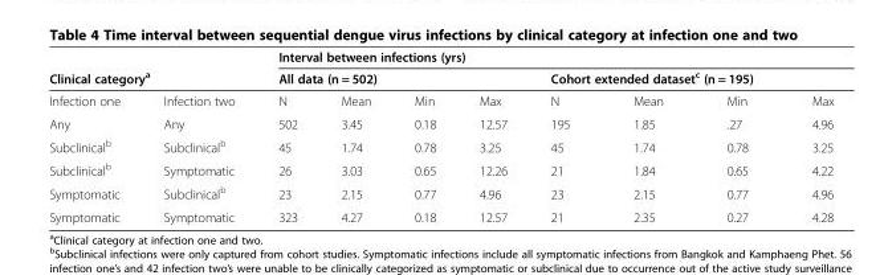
<table><thead><tr><td></td><td></td><td colspan="8">Interval between infections (yrs)</td></tr><tr><td colspan="2">Clinical category<sup>a</sup></td><td colspan="4">All data (n = 502)</td><td colspan="4">Cohort extended dataset<sup>c</sup> (n = 195)</td></tr><tr><td>Infection one</td><td>Infection two</td><td>N</td><td>Mean</td><td>Min</td><td>Max</td><td>N</td><td>Mean</td><td>Min</td><td>Max</td></tr></thead><tbody><tr><td>Any</td><td>Any</td><td>502</td><td>3.45</td><td>0.18</td><td>12.57</td><td>195</td><td>1.85</td><td>.27</td><td>4.96</td></tr><tr><td>Subclinical<sup>b</sup></td><td>Subclinical<sup>b</sup></td><td>45</td><td>1.74</td><td>0.78</td><td>3.25</td><td>45</td><td>1.74</td><td>0.78</td><td>3.25</td></tr><tr><td>Subclinical<sup>b</sup></td><td>Symptomatic</td><td>26</td><td>3.03</td><td>0.65</td><td>12.26</td><td>21</td><td>1.84</td><td>0.65</td><td>4.22</td></tr><tr><td>Symptomatic</td><td>Subclinical<sup>b</sup></td><td>23</td><td>2.15</td><td>0.77</td><td>4.96</td><td>23</td><td>2.15</td><td>0.77</td><td>4.96</td></tr><tr><td>Symptomatic</td><td>Symptomatic</td><td>323</td><td>4.27</td><td>0.18</td><td>12.57</td><td>21</td><td>2.35</td><td>0.27</td><td>4.28</td></tr></tbody></table>